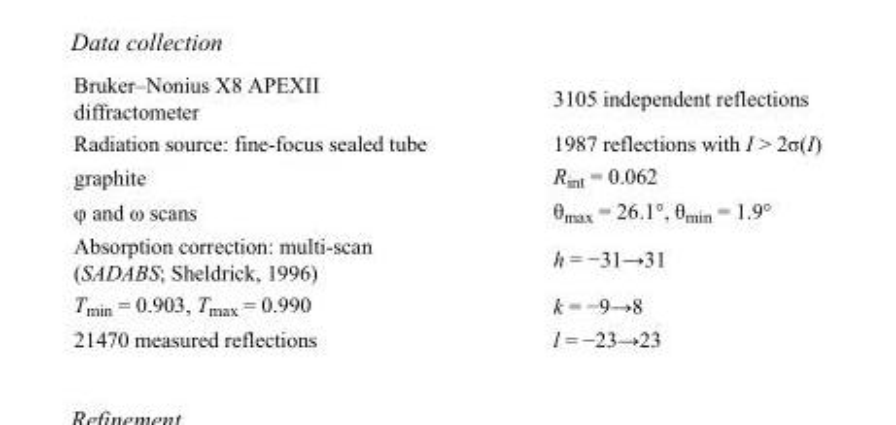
<table><tbody><tr><td>Bruker–Nonius X8 APEXII diffractometer</td><td>3105 independent reflections</td></tr><tr><td>Radiation source: fine-focus sealed tube</td><td>1987 reflections with I &gt; 2σ(I)</td></tr><tr><td>graphite</td><td>R<sub>int</sub> = 0.062</td></tr><tr><td>φ and ω scans</td><td>θ<sub>max</sub> = 26.1°, θ<sub>min</sub> = 1.9°</td></tr><tr><td>Absorption correction: multi-scan (SADABS; Sheldrick, 1996)</td><td>h = −31→31</td></tr><tr><td>T<sub>min</sub> = 0.903, T<sub>max</sub> = 0.990</td><td>k = −9→8</td></tr><tr><td>21470 measured reflections</td><td>l = −23→23</td></tr></tbody></table>